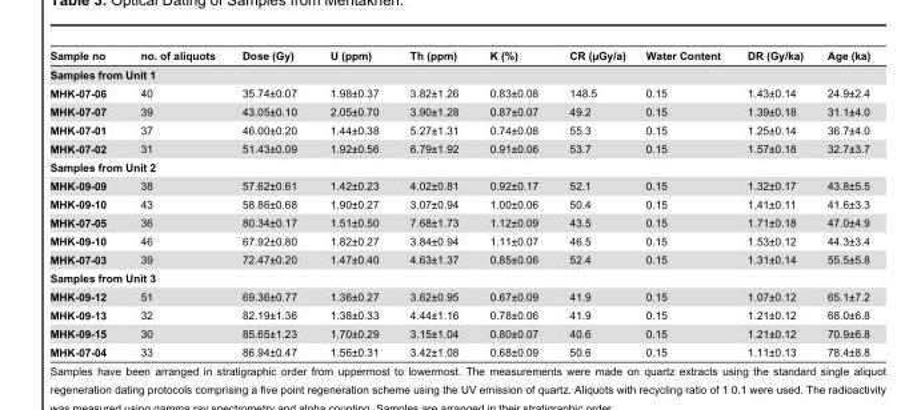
<table><thead><tr><td>Sample no</td><td>no. of aliquots</td><td>Dose (Gy)</td><td>U (ppm)</td><td>Th (ppm)</td><td>K (%)</td><td>CR (µGy/a)</td><td>Water Content</td><td>DR (Gy/ka)</td><td>Age (ka)</td></tr></thead><tbody><tr><td colspan="10">Samples from Unit 1</td></tr><tr><td>MHK-07-06</td><td>40</td><td>35.74±0.07</td><td>1.98±0.37</td><td>3.82±1.26</td><td>0.83±0.08</td><td>148.5</td><td>0.15</td><td>1.43±0.14</td><td>24.9±2.4</td></tr><tr><td>MHK-07-07</td><td>39</td><td>43.05±0.10</td><td>2.05±0.70</td><td>3.90±1.28</td><td>0.87±0.07</td><td>49.2</td><td>0.15</td><td>1.39±0.18</td><td>31.1±4.0</td></tr><tr><td>MHK-07-01</td><td>37</td><td>46.00±0.20</td><td>1.44±0.38</td><td>5.27±1.31</td><td>0.74±0.08</td><td>55.3</td><td>0.15</td><td>1.25±0.14</td><td>36.7±4.0</td></tr><tr><td>MHK-07-02</td><td>31</td><td>51.43±0.09</td><td>1.92±0.56</td><td>6.79±1.92</td><td>0.91±0.06</td><td>53.7</td><td>0.15</td><td>1.57±0.18</td><td>32.7±3.7</td></tr><tr><td colspan="10">Samples from Unit 2</td></tr><tr><td>MHK-09-09</td><td>38</td><td>57.62±0.61</td><td>1.42±0.23</td><td>4.02±0.81</td><td>0.92±0.17</td><td>52.1</td><td>0.15</td><td>1.32±0.17</td><td>43.8±5.5</td></tr><tr><td>MHK-09-10</td><td>43</td><td>58.86±0.68</td><td>1.90±0.27</td><td>3.07±0.94</td><td>1.00±0.06</td><td>50.4</td><td>0.15</td><td>1.41±0.11</td><td>41.6±3.3</td></tr><tr><td>MHK-07-05</td><td>36</td><td>80.34±0.17</td><td>1.51±0.50</td><td>7.68±1.73</td><td>1.12±0.09</td><td>43.5</td><td>0.15</td><td>1.71±0.18</td><td>47.0±4.9</td></tr><tr><td>MHK-09-10</td><td>46</td><td>67.92±0.80</td><td>1.82±0.27</td><td>3.84±0.94</td><td>1.11±0.07</td><td>46.5</td><td>0.15</td><td>1.53±0.12</td><td>44.3±3.4</td></tr><tr><td>MHK-07-03</td><td>39</td><td>72.47±0.20</td><td>1.47±0.40</td><td>4.63±1.37</td><td>0.85±0.06</td><td>52.4</td><td>0.15</td><td>1.31±0.14</td><td>55.5±5.8</td></tr><tr><td colspan="10">Samples from Unit 3</td></tr><tr><td>MHK-09-12</td><td>51</td><td>69.36±0.77</td><td>1.36±0.27</td><td>3.62±0.95</td><td>0.67±0.09</td><td>41.9</td><td>0.15</td><td>1.07±0.12</td><td>65.1±7.2</td></tr><tr><td>MHK-09-13</td><td>32</td><td>82.19±1.36</td><td>1.38±0.33</td><td>4.44±1.16</td><td>0.78±0.06</td><td>41.9</td><td>0.15</td><td>1.21±0.12</td><td>68.0±6.8</td></tr><tr><td>MHK-09-15</td><td>30</td><td>85.65±1.23</td><td>1.70±0.29</td><td>3.15±1.04</td><td>0.80±0.07</td><td>40.6</td><td>0.15</td><td>1.21±0.12</td><td>70.9±6.8</td></tr><tr><td>MHK-07-04</td><td>33</td><td>86.94±0.47</td><td>1.56±0.31</td><td>3.42±1.08</td><td>0.68±0.09</td><td>50.6</td><td>0.15</td><td>1.11±0.13</td><td>78.4±8.8</td></tr></tbody></table>